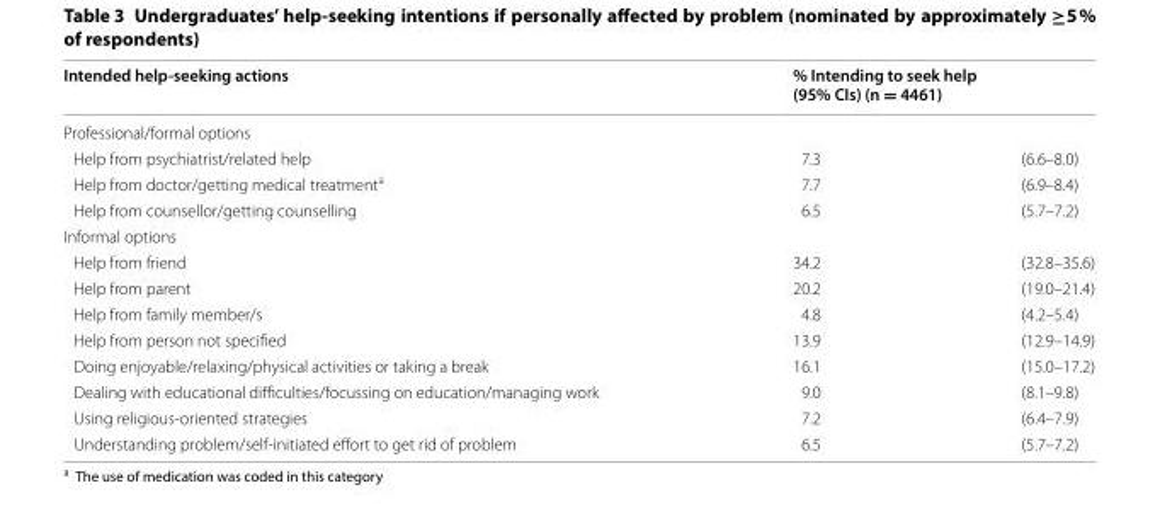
<table><thead><tr><td>Intended help‑seeking actions</td><td colspan="2">% Intending to seek help (95% CIs) (n = 4461)</td></tr><tr><td colspan="3">Professional/formal options</td></tr><tr><td>Help from psychiatrist/related help</td><td>7.3</td><td>(6.6–8.0)</td></tr></thead><tbody><tr><td>Help from doctor/getting medical treatment<sup>a</sup></td><td>7.7</td><td>(6.9–8.4)</td></tr><tr><td>Help from counsellor/getting counselling</td><td>6.5</td><td>(5.7–7.2)</td></tr><tr><td colspan="3">Informal options</td></tr><tr><td>Help from friend</td><td>34.2</td><td>(32.8–35.6)</td></tr><tr><td>Help from parent</td><td>20.2</td><td>(19.0–21.4)</td></tr><tr><td>Help from family member/s</td><td>4.8</td><td>(4.2–5.4)</td></tr><tr><td>Help from person not specified</td><td>13.9</td><td>(12.9–14.9)</td></tr><tr><td>Doing enjoyable/relaxing/physical activities or taking a break</td><td>16.1</td><td>(15.0–17.2)</td></tr><tr><td>Dealing with educational difficulties/focussing on education/managing work</td><td>9.0</td><td>(8.1–9.8)</td></tr><tr><td>Using religious-oriented strategies</td><td>7.2</td><td>(6.4–7.9)</td></tr><tr><td>Understanding problem/self-initiated effort to get rid of problem</td><td>6.5</td><td>(5.7–7.2)</td></tr></tbody></table>